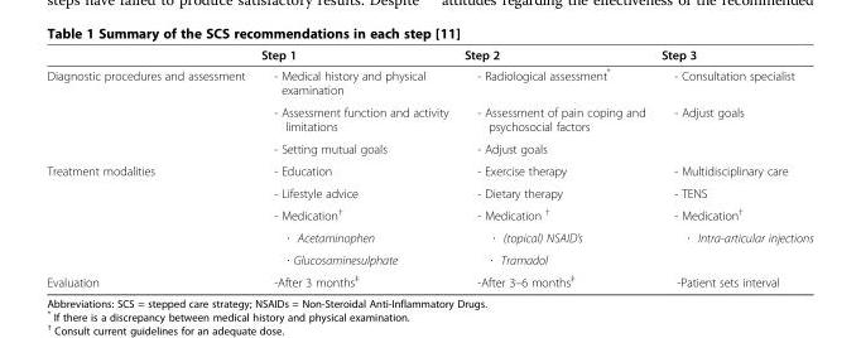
<table><thead><tr><td></td><td>Step 1</td><td>Step 2</td><td>Step 3</td></tr></thead><tbody><tr><td rowspan="3">Diagnostic procedures and assessment</td><td>- Medical history and physical examination</td><td>- Radiological assessment*</td><td>- Consultation specialist</td></tr><tr><td>- Assessment function and activity limitations</td><td>- Assessment of pain coping and psychosocial factors</td><td rowspan="2">- Adjust goals</td></tr><tr><td>- Setting mutual goals</td><td>- Adjust goals</td></tr><tr><td rowspan="5">Treatment modalities</td><td>- Education</td><td>- Exercise therapy</td><td>- Multidisciplinary care</td></tr><tr><td>- Lifestyle advice</td><td>- Dietary therapy</td><td>- TENS</td></tr><tr><td>- Medication<sup>†</sup></td><td>- Medication <sup>†</sup></td><td>- Medication<sup>†</sup></td></tr><tr><td>∙ Acetaminophen</td><td>∙ (topical) NSAID’s</td><td rowspan="2">∙ Intra-articular injections</td></tr><tr><td>∙ Glucosaminesulphate</td><td>∙ Tramadol</td></tr><tr><td>Evaluation</td><td>-After 3 months<sup>‡</sup></td><td>-After 3–6 months<sup>‡</sup></td><td>-Patient sets interval</td></tr></tbody></table>